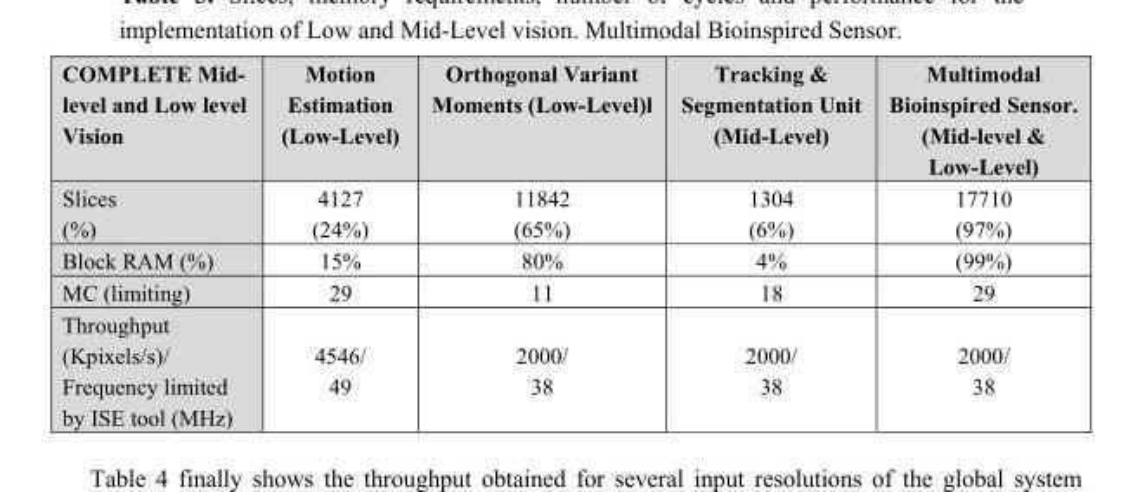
<table><thead><tr><td>COMPLETE Mid- level and Low level Vision</td><td>Motion Estimation (Low-Level)</td><td>Orthogonal Variant Moments (Low-Level)l</td><td>Tracking &amp; Segmentation Unit (Mid-Level)</td><td>Multimodal Bioinspired Sensor. (Mid-level &amp; Low-Level)</td></tr></thead><tbody><tr><td>Slices (%)</td><td>4127 (24%)</td><td>11842 (65%)</td><td>1304 (6%)</td><td>17710 (97%)</td></tr><tr><td>Block RAM (%)</td><td>15%</td><td>80%</td><td>4%</td><td>(99%)</td></tr><tr><td>MC (limiting)</td><td>29</td><td>11</td><td>18</td><td>29</td></tr><tr><td>Throughput (Kpixels/s)/ Frequency limited by ISE tool (MHz)</td><td>4546/ 49</td><td>2000/ 38</td><td>2000/ 38</td><td>2000/ 38</td></tr></tbody></table>